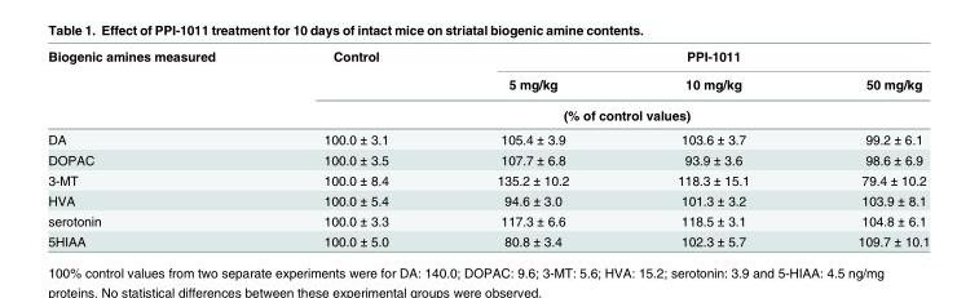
<table><thead><tr><td rowspan="3">Biogenic amines measured</td><td rowspan="2">Control</td><td colspan="3">PPI-1011</td></tr><tr><td>5 mg/kg</td><td>10 mg/kg</td><td>50 mg/kg</td></tr><tr><td colspan="4">(% of control values)</td></tr></thead><tbody><tr><td>DA</td><td>100.0 ± 3.1</td><td>105.4 ± 3.9</td><td>103.6 ± 3.7</td><td>99.2 ± 6.1</td></tr><tr><td>DOPAC</td><td>100.0 ± 3.5</td><td>107.7 ± 6.8</td><td>93.9 ± 3.6</td><td>98.6 ± 6.9</td></tr><tr><td>3-MT</td><td>100.0 ± 8.4</td><td>135.2 ± 10.2</td><td>118.3 ± 15.1</td><td>79.4 ± 10.2</td></tr><tr><td>HVA</td><td>100.0 ± 5.4</td><td>94.6 ± 3.0</td><td>101.3 ± 3.2</td><td>103.9 ± 8.1</td></tr><tr><td>serotonin</td><td>100.0 ± 3.3</td><td>117.3 ± 6.6</td><td>118.5 ± 3.1</td><td>104.8 ± 6.1</td></tr><tr><td>5HIAA</td><td>100.0 ± 5.0</td><td>80.8 ± 3.4</td><td>102.3 ± 5.7</td><td>109.7 ± 10.1</td></tr></tbody></table>